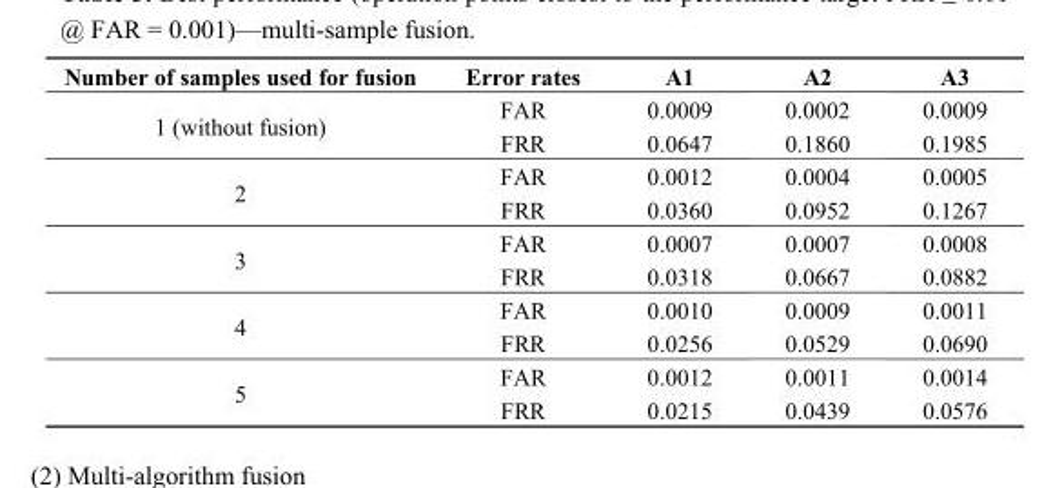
<table><thead><tr><td>Number of samples used for fusion</td><td>Error rates</td><td>A1</td><td>A2</td><td>A3</td></tr></thead><tbody><tr><td rowspan="2">1 (without fusion)</td><td>FAR</td><td>0.0009</td><td>0.0002</td><td>0.0009</td></tr><tr><td>FRR</td><td>0.0647</td><td>0.1860</td><td>0.1985</td></tr><tr><td rowspan="2">2</td><td>FAR</td><td>0.0012</td><td>0.0004</td><td>0.0005</td></tr><tr><td>FRR</td><td>0.0360</td><td>0.0952</td><td>0.1267</td></tr><tr><td rowspan="2">3</td><td>FAR</td><td>0.0007</td><td>0.0007</td><td>0.0008</td></tr><tr><td>FRR</td><td>0.0318</td><td>0.0667</td><td>0.0882</td></tr><tr><td rowspan="2">4</td><td>FAR</td><td>0.0010</td><td>0.0009</td><td>0.0011</td></tr><tr><td>FRR</td><td>0.0256</td><td>0.0529</td><td>0.0690</td></tr><tr><td rowspan="2">5</td><td>FAR</td><td>0.0012</td><td>0.0011</td><td>0.0014</td></tr><tr><td>FRR</td><td>0.0215</td><td>0.0439</td><td>0.0576</td></tr></tbody></table>